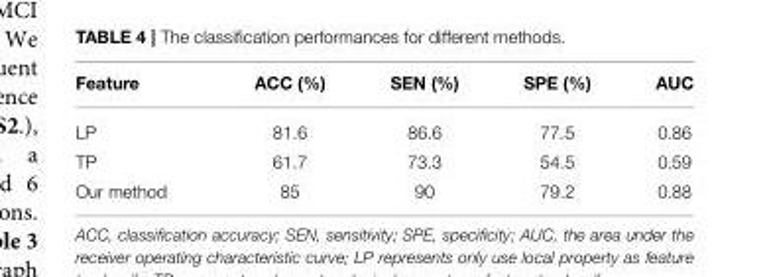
<table><thead><tr><td>Feature</td><td>ACC (%)</td><td>SEN (%)</td><td>SPE (%)</td><td>AUC</td></tr></thead><tbody><tr><td>LP</td><td>81.6</td><td>86.6</td><td>77.5</td><td>0.86</td></tr><tr><td>TP</td><td>61.7</td><td>73.3</td><td>54.5</td><td>0.59</td></tr><tr><td>Our method</td><td>85</td><td>90</td><td>79.2</td><td>0.88</td></tr></tbody></table>